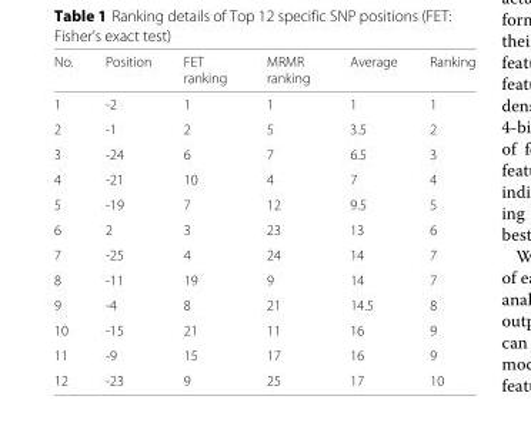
<table><thead><tr><td>No.</td><td>Position</td><td>FET ranking</td><td>MRMR ranking</td><td>Average</td><td>Ranking</td></tr></thead><tbody><tr><td>1</td><td>-2</td><td>1</td><td>1</td><td>1</td><td>1</td></tr><tr><td>2</td><td>-1</td><td>2</td><td>5</td><td>3.5</td><td>2</td></tr><tr><td>3</td><td>-24</td><td>6</td><td>7</td><td>6.5</td><td>3</td></tr><tr><td>4</td><td>-21</td><td>10</td><td>4</td><td>7</td><td>4</td></tr><tr><td>5</td><td>-19</td><td>7</td><td>12</td><td>9.5</td><td>5</td></tr><tr><td>6</td><td>2</td><td>3</td><td>23</td><td>13</td><td>6</td></tr><tr><td>7</td><td>-25</td><td>4</td><td>24</td><td>14</td><td>7</td></tr><tr><td>8</td><td>-11</td><td>19</td><td>9</td><td>14</td><td>7</td></tr><tr><td>9</td><td>-4</td><td>8</td><td>21</td><td>14.5</td><td>8</td></tr><tr><td>10</td><td>-15</td><td>21</td><td>11</td><td>16</td><td>9</td></tr><tr><td>11</td><td>-9</td><td>15</td><td>17</td><td>16</td><td>9</td></tr><tr><td>12</td><td>-23</td><td>9</td><td>25</td><td>17</td><td>10</td></tr></tbody></table>